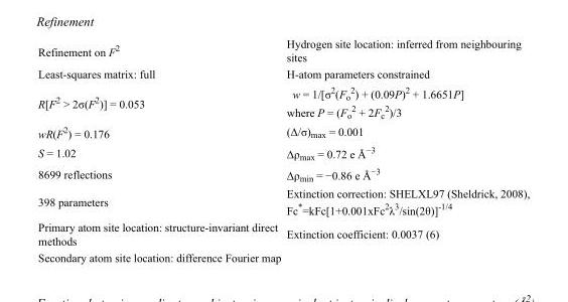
<table><tbody><tr><td>Refinement on F<sup>2</sup></td><td>Hydrogen site location: inferred from neighbouring sites</td></tr><tr><td>Least-squares matrix: full</td><td>H-atom parameters constrained</td></tr><tr><td>R[F<sup>2</sup> &gt; 2σ(F<sup>2</sup>)] = 0.053</td><td>w = 1/[σ<sup>2</sup>(F<sub>o</sub> <sup>2</sup>) + (0.09P)<sup>2</sup> + 1.6651P] where P = (F<sub>o</sub> <sup>2</sup> + 2F<sub>c</sub> <sup>2</sup>)/3</td></tr><tr><td>wR(F<sup>2</sup>) = 0.176</td><td>(Δ/σ)<sub>max</sub> = 0.001</td></tr><tr><td>S = 1.02</td><td>Δρ<sub>max</sub> = 0.72 e Å<sup>−3</sup></td></tr><tr><td>8699 reflections</td><td>Δρ<sub>min</sub> = −0.86 e Å<sup>−3</sup></td></tr><tr><td>398 parameters</td><td>Extinction correction: SHELXL97 (Sheldrick, 2008), Fc*=kFc[1+0.001xFc<sup>2</sup>λ<sup>3</sup>/sin(2θ)]<sup>-1/4</sup></td></tr><tr><td>Primary atom site location: structure-invariant direct methods</td><td>Extinction coefficient: 0.0037 (6)</td></tr><tr><td>Secondary atom site location: difference Fourier map</td><td></td></tr></tbody></table>